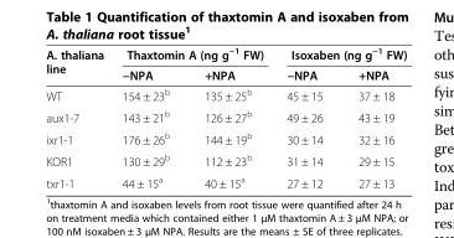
<table><thead><tr><td rowspan="2">A. thaliana line</td><td colspan="2">Thaxtomin A (ng g<sup>−1</sup> FW)</td><td colspan="2">Isoxaben (ng g<sup>−1</sup> FW)</td></tr><tr><td>−NPA</td><td>+NPA</td><td>−NPA</td><td>+NPA</td></tr></thead><tbody><tr><td>WT</td><td>154 ± 23<sup>b</sup></td><td>135 ± 25<sup>b</sup></td><td>45 ± 15</td><td>37 ± 18</td></tr><tr><td>aux1-7</td><td>143 ± 21<sup>b</sup></td><td>126 ± 27<sup>b</sup></td><td>49 ± 26</td><td>43 ± 19</td></tr><tr><td>ixr1-1</td><td>176 ± 26<sup>b</sup></td><td>144 ± 19<sup>b</sup></td><td>30 ± 14</td><td>32 ± 16</td></tr><tr><td>KOR1</td><td>130 ± 29<sup>b</sup></td><td>112 ± 23<sup>b</sup></td><td>31 ± 14</td><td>29 ± 15</td></tr><tr><td>txr1-1</td><td>44 ± 15<sup>a</sup></td><td>40 ± 15<sup>a</sup></td><td>27 ± 12</td><td>27 ± 13</td></tr></tbody></table>